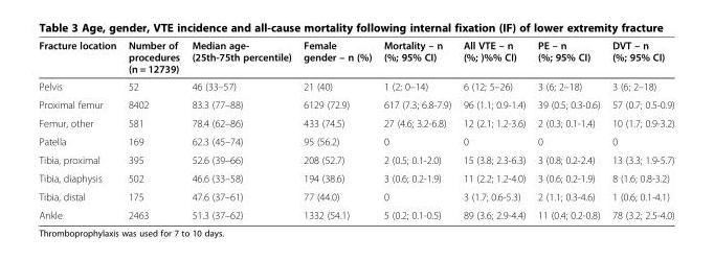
<table><thead><tr><td>Fracture location</td><td>Number of procedures (n = 12739)</td><td>Median age- (25th-75th percentile)</td><td>Female gender – n (%)</td><td>Mortality – n (%; 95% CI)</td><td>All VTE – n (%; )%% CI)</td><td>PE – n (%; 95% CI)</td><td>DVT – n (%; 95% CI)</td></tr></thead><tbody><tr><td>Pelvis</td><td>52</td><td>46 (33–57)</td><td>21 (40)</td><td>1 (2; 0–14)</td><td>6 (12; 5–26)</td><td>3 (6; 2–18)</td><td>3 (6; 2–18)</td></tr><tr><td>Proximal femur</td><td>8402</td><td>83.3 (77–88)</td><td>6129 (72.9)</td><td>617 (7.3; 6.8-7.9)</td><td>96 (1.1; 0.9-1.4)</td><td>39 (0.5; 0.3-0.6)</td><td>57 (0.7; 0.5-0.9)</td></tr><tr><td>Femur, other</td><td>581</td><td>78.4 (62–86)</td><td>433 (74.5)</td><td>27 (4.6; 3.2-6.8)</td><td>12 (2.1; 1.2-3.6)</td><td>2 (0.3; 0.1-1.4)</td><td>10 (1.7; 0.9-3.2)</td></tr><tr><td>Patella</td><td>169</td><td>62.3 (45–74)</td><td>95 (56.2)</td><td>0</td><td>0</td><td>0</td><td>0</td></tr><tr><td>Tibia, proximal</td><td>395</td><td>52.6 (39–66)</td><td>208 (52.7)</td><td>2 (0.5; 0.1-2.0)</td><td>15 (3.8; 2.3-6.3)</td><td>3 (0.8; 0.2-2.4)</td><td>13 (3.3; 1.9-5.7)</td></tr><tr><td>Tibia, diaphysis</td><td>502</td><td>46.6 (33–58)</td><td>194 (38.6)</td><td>3 (0.6; 0.2-1.9)</td><td>11 (2.2; 1.2-4.0)</td><td>3 (0.6; 0.2-1.9)</td><td>8 (1.6; 0.8-3.2)</td></tr><tr><td>Tibia, distal</td><td>175</td><td>47.6 (37–61)</td><td>77 (44.0)</td><td>0</td><td>3 (1.7; 0.6-5.3)</td><td>2 (1.1; 0.3-4.6)</td><td>1 (0.6; 0.1-4.1)</td></tr><tr><td>Ankle</td><td>2463</td><td>51.3 (37–62)</td><td>1332 (54.1)</td><td>5 (0.2; 0.1-0.5)</td><td>89 (3.6; 2.9-4.4)</td><td>11 (0.4; 0.2-0.8)</td><td>78 (3.2; 2.5-4.0)</td></tr></tbody></table>